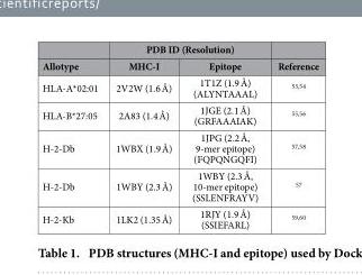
<table><thead><tr><td rowspan="2">Allotype</td><td colspan="2">PDB ID (Resolution)</td><td rowspan="2">Reference</td></tr><tr><td>MHC-I</td><td>Epitope</td></tr></thead><tbody><tr><td>HLA-A*02:01</td><td>2V2W (1.6 Å)</td><td>1T1Z (1.9 Å) (ALYNTAAAL)</td><td>53,54</td></tr><tr><td>HLA-B*27:05</td><td>2A83 (1.4 Å)</td><td>1JGE (2.1 Å) (GRFAAAIAK)</td><td>55,56</td></tr><tr><td>H-2-Db</td><td>1WBX (1.9 Å)</td><td>1JPG (2.2 Å, 9-mer epitope) (FQPQNGQFI)</td><td>57,58</td></tr><tr><td>H-2-Db</td><td>1WBY (2.3 Å)</td><td>1WBY (2.3 Å, 10-mer epitope) (SSLENFRAYV)</td><td>57</td></tr><tr><td>H-2-Kb</td><td>1LK2 (1.35 Å)</td><td>1RJY (1.9 Å) (SSIEFARL)</td><td>59,60</td></tr></tbody></table>